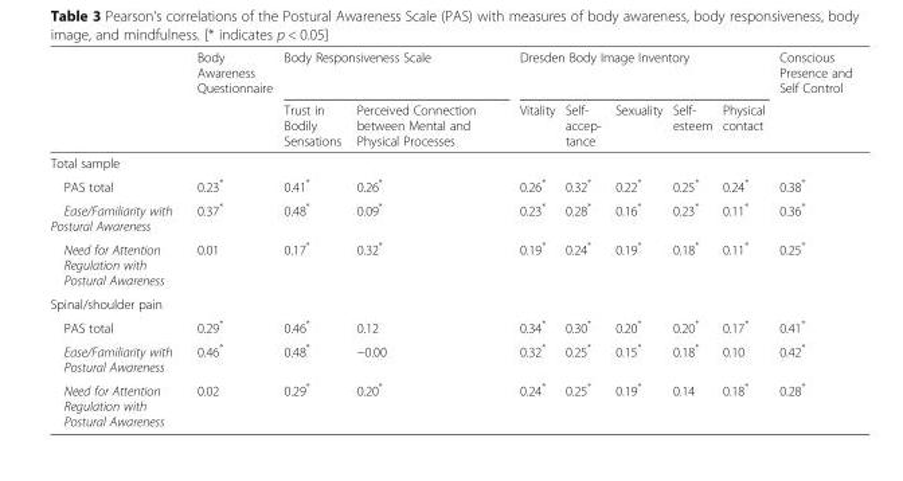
<table><thead><tr><td rowspan="2"></td><td rowspan="2">Body Awareness Questionnaire</td><td colspan="2">Body Responsiveness Scale</td><td colspan="5">Dresden Body Image Inventory</td><td rowspan="2">Conscious Presence and Self Control</td></tr><tr><td>Trust in Bodily Sensations</td><td>Perceived Connection between Mental and Physical Processes</td><td>Vitality</td><td>Self- accep- tance</td><td>Sexuality</td><td>Self- esteem</td><td>Physical contact</td></tr></thead><tbody><tr><td colspan="10">Total sample</td></tr><tr><td>PAS total</td><td>0.23*</td><td>0.41*</td><td>0.26*</td><td>0.26*</td><td>0.32*</td><td>0.22*</td><td>0.25*</td><td>0.24*</td><td>0.38*</td></tr><tr><td>Ease/Familiarity with Postural Awareness</td><td>0.37*</td><td>0.48*</td><td>0.09*</td><td>0.23*</td><td>0.28*</td><td>0.16*</td><td>0.23*</td><td>0.11*</td><td>0.36*</td></tr><tr><td>Need for Attention Regulation with Postural Awareness</td><td>0.01</td><td>0.17*</td><td>0.32*</td><td>0.19*</td><td>0.24*</td><td>0.19*</td><td>0.18*</td><td>0.11*</td><td>0.25*</td></tr><tr><td colspan="10">Spinal/shoulder pain</td></tr><tr><td>PAS total</td><td>0.29*</td><td>0.46*</td><td>0.12</td><td>0.34*</td><td>0.30*</td><td>0.20*</td><td>0.20*</td><td>0.17*</td><td>0.41*</td></tr><tr><td>Ease/Familiarity with Postural Awareness</td><td>0.46*</td><td>0.48*</td><td>−0.00</td><td>0.32*</td><td>0.25*</td><td>0.15*</td><td>0.18*</td><td>0.10</td><td>0.42*</td></tr><tr><td>Need for Attention Regulation with Postural Awareness</td><td>0.02</td><td>0.29*</td><td>0.20*</td><td>0.24*</td><td>0.25*</td><td>0.19*</td><td>0.14</td><td>0.18*</td><td>0.28*</td></tr></tbody></table>